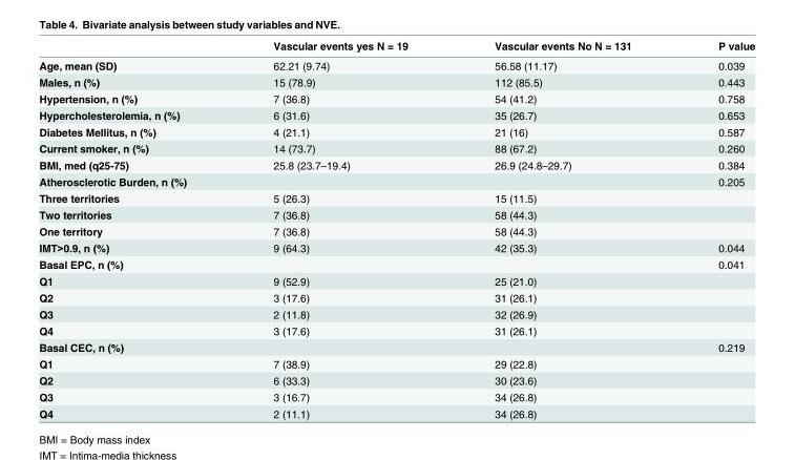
<table><thead><tr><td></td><td>Vascular events yes N = 19</td><td>Vascular events No N = 131</td><td>P value</td></tr></thead><tbody><tr><td>Age, mean (SD)</td><td>62.21 (9.74)</td><td>56.58 (11.17)</td><td>0.039</td></tr><tr><td>Males, n (%)</td><td>15 (78.9)</td><td>112 (85.5)</td><td>0.443</td></tr><tr><td>Hypertension, n (%)</td><td>7 (36.8)</td><td>54 (41.2)</td><td>0.758</td></tr><tr><td>Hypercholesterolemia, n (%)</td><td>6 (31.6)</td><td>35 (26.7)</td><td>0.653</td></tr><tr><td>Diabetes Mellitus, n (%)</td><td>4 (21.1)</td><td>21 (16)</td><td>0.587</td></tr><tr><td>Current smoker, n (%)</td><td>14 (73.7)</td><td>88 (67.2)</td><td>0.260</td></tr><tr><td>BMI, med (q25-75)</td><td>25.8 (23.7–19.4)</td><td>26.9 (24.8–29.7)</td><td>0.384</td></tr><tr><td>Atherosclerotic Burden, n (%)</td><td></td><td></td><td>0.205</td></tr><tr><td>Three territories</td><td>5 (26.3)</td><td>15 (11.5)</td><td></td></tr><tr><td>Two territories</td><td>7 (36.8)</td><td>58 (44.3)</td><td></td></tr><tr><td>One territory</td><td>7 (36.8)</td><td>58 (44.3)</td><td></td></tr><tr><td>IMT&gt;0.9, n (%)</td><td>9 (64.3)</td><td>42 (35.3)</td><td>0.044</td></tr><tr><td>Basal EPC, n (%)</td><td></td><td></td><td>0.041</td></tr><tr><td>Q1</td><td>9 (52.9)</td><td>25 (21.0)</td><td></td></tr><tr><td>Q2</td><td>3 (17.6)</td><td>31 (26.1)</td><td></td></tr><tr><td>Q3</td><td>2 (11.8)</td><td>32 (26.9)</td><td></td></tr><tr><td>Q4</td><td>3 (17.6)</td><td>31 (26.1)</td><td></td></tr><tr><td>Basal CEC, n (%)</td><td></td><td></td><td>0.219</td></tr><tr><td>Q1</td><td>7 (38.9)</td><td>29 (22.8)</td><td></td></tr><tr><td>Q2</td><td>6 (33.3)</td><td>30 (23.6)</td><td></td></tr><tr><td>Q3</td><td>3 (16.7)</td><td>34 (26.8)</td><td></td></tr><tr><td>Q4</td><td>2 (11.1)</td><td>34 (26.8)</td><td></td></tr></tbody></table>